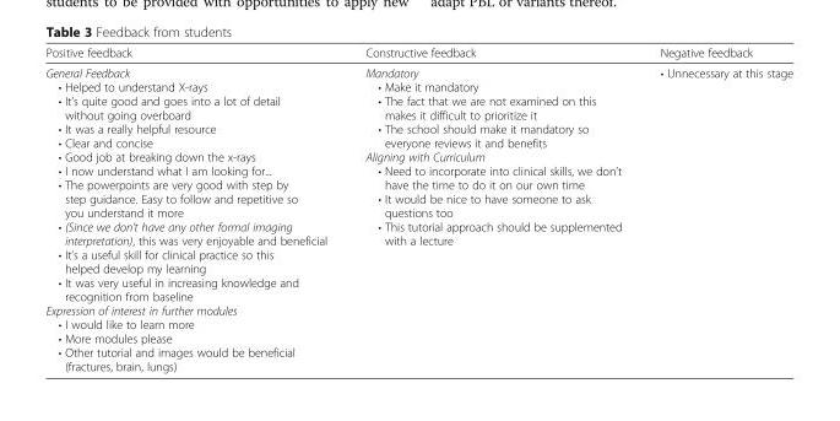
<table><thead><tr><td>Positive feedback</td><td>Constructive feedback</td><td>Negative feedback</td></tr></thead><tbody><tr><td>General Feedback • Helped to understand X-rays • It’s quite good and goes into a lot of detail without going overboard • It was a really helpful resource • Clear and concise • Good job at breaking down the x-rays • I now understand what I am looking for... • The powerpoints are very good with step by step guidance. Easy to follow and repetitive so you understand it more • (Since we don’t have any other formal imaging interpretation), this was very enjoyable and beneficial • It’s a useful skill for clinical practice so this helped develop my learning • It was very useful in increasing knowledge and recognition from baseline Expression of interest in further modules • I would like to learn more • More modules please • Other tutorial and images would be beneficial (fractures, brain, lungs)</td><td>Mandatory • Make it mandatory • The fact that we are not examined on this makes it difficult to prioritize it • The school should make it mandatory so everyone reviews it and benefits Aligning with Curriculum • Need to incorporate into clinical skills, we don’t have the time to do it on our own time • It would be nice to have someone to ask questions too • This tutorial approach should be supplemented with a lecture</td><td>• Unnecessary at this stage</td></tr></tbody></table>